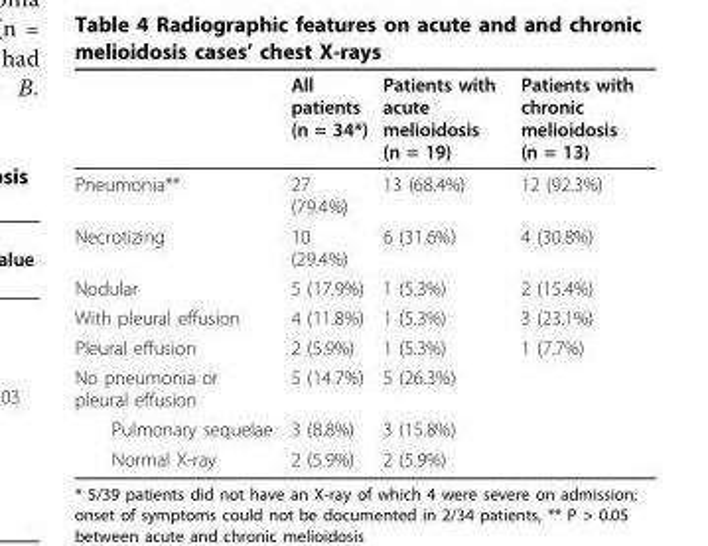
<table><thead><tr><td></td><td>All patients (n = 34*)</td><td>Patients with acute melioidosis (n = 19)</td><td>Patients with chronic melioidosis (n = 13)</td></tr></thead><tbody><tr><td>Pneumonia**</td><td>27 (79.4%)</td><td>13 (68.4%)</td><td>12 (92.3%)</td></tr><tr><td>Necrotizing</td><td>10 (29.4%)</td><td>6 (31.6%)</td><td>4 (30.8%)</td></tr><tr><td>Nodular</td><td>5 (17.9%)</td><td>1 (5.3%)</td><td>2 (15.4%)</td></tr><tr><td>With pleural effusion</td><td>4 (11.8%)</td><td>1 (5.3%)</td><td>3 (23.1%)</td></tr><tr><td>Pleural effusion</td><td>2 (5.9%)</td><td>1 (5.3%)</td><td>1 (7.7%)</td></tr><tr><td>No pneumonia or pleural effusion</td><td>5 (14.7%)</td><td>5 (26.3%)</td><td></td></tr><tr><td>Pulmonary sequelae</td><td>3 (8.8%)</td><td>3 (15.8%)</td><td></td></tr><tr><td>Normal X-ray</td><td>2 (5.9%)</td><td>2 (5.9%)</td><td></td></tr></tbody></table>